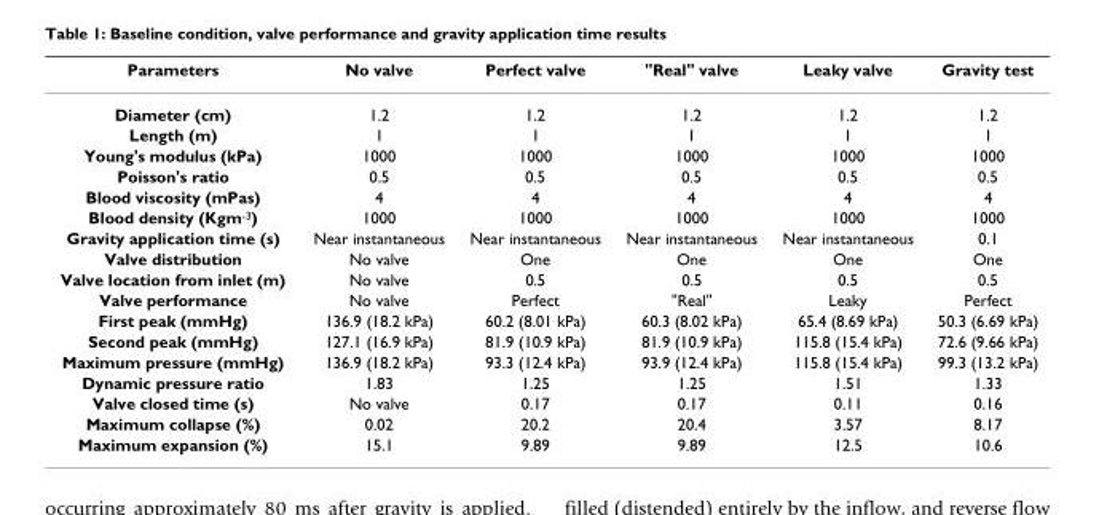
<table><thead><tr><td>Parameters</td><td>No valve</td><td>Perfect valve</td><td>&quot;Real&quot; valve</td><td>Leaky valve</td><td>Gravity test</td></tr></thead><tbody><tr><td>Diameter (cm)</td><td>1.2</td><td>1.2</td><td>1.2</td><td>1.2</td><td>1.2</td></tr><tr><td>Length (m)</td><td>1</td><td>1</td><td>1</td><td>1</td><td>1</td></tr><tr><td>Young&#x27;s modulus (kPa)</td><td>1000</td><td>1000</td><td>1000</td><td>1000</td><td>1000</td></tr><tr><td>Poisson&#x27;s ratio</td><td>0.5</td><td>0.5</td><td>0.5</td><td>0.5</td><td>0.5</td></tr><tr><td>Blood viscosity (mPas)</td><td>4</td><td>4</td><td>4</td><td>4</td><td>4</td></tr><tr><td>Blood density (Kgm<sup>-3</sup>)</td><td>1000</td><td>1000</td><td>1000</td><td>1000</td><td>1000</td></tr><tr><td>Gravity application time (s)</td><td>Near instantaneous</td><td>Near instantaneous</td><td>Near instantaneous</td><td>Near instantaneous</td><td>0.1</td></tr><tr><td>Valve distribution</td><td>No valve</td><td>One</td><td>One</td><td>One</td><td>One</td></tr><tr><td>Valve location from inlet (m)</td><td>No valve</td><td>0.5</td><td>0.5</td><td>0.5</td><td>0.5</td></tr><tr><td>Valve performance</td><td>No valve</td><td>Perfect</td><td>&quot;Real&quot;</td><td>Leaky</td><td>Perfect</td></tr><tr><td>First peak (mmHg)</td><td>136.9 (18.2 kPa)</td><td>60.2 (8.01 kPa)</td><td>60.3 (8.02 kPa)</td><td>65.4 (8.69 kPa)</td><td>50.3 (6.69 kPa)</td></tr><tr><td>Second peak (mmHg)</td><td>127.1 (16.9 kPa)</td><td>81.9 (10.9 kPa)</td><td>81.9 (10.9 kPa)</td><td>115.8 (15.4 kPa)</td><td>72.6 (9.66 kPa)</td></tr><tr><td>Maximum pressure (mmHg)</td><td>136.9 (18.2 kPa)</td><td>93.3 (12.4 kPa)</td><td>93.9 (12.4 kPa)</td><td>115.8 (15.4 kPa)</td><td>99.3 (13.2 kPa)</td></tr><tr><td>Dynamic pressure ratio</td><td>1.83</td><td>1.25</td><td>1.25</td><td>1.51</td><td>1.33</td></tr><tr><td>Valve closed time (s)</td><td>No valve</td><td>0.17</td><td>0.17</td><td>0.11</td><td>0.16</td></tr><tr><td>Maximum collapse (%)</td><td>0.02</td><td>20.2</td><td>20.4</td><td>3.57</td><td>8.17</td></tr><tr><td>Maximum expansion (%)</td><td>15.1</td><td>9.89</td><td>9.89</td><td>12.5</td><td>10.6</td></tr></tbody></table>